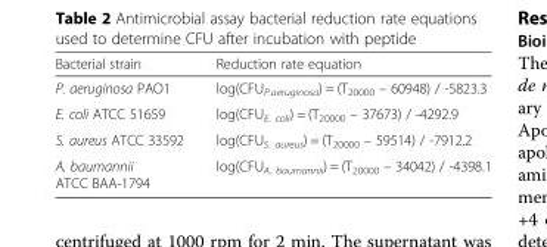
<table><thead><tr><td>Bacterial strain</td><td>Reduction rate equation</td></tr></thead><tbody><tr><td>P. aeruginosa PAO1</td><td>log(CFU<sub>P.aeruginosa</sub>) = (T<sub>20000</sub> – 60948) / -5823.3</td></tr><tr><td>E. coli ATCC 51659</td><td>log(CFU<sub>E. coli</sub>) = (T<sub>20000</sub> – 37673) / -4292.9</td></tr><tr><td>S. aureus ATCC 33592</td><td>log(CFU<sub>S. aureus</sub>) = (T<sub>20000</sub> – 59514) / -7912.2</td></tr><tr><td>A. baumannii ATCC BAA-1794</td><td>log(CFU<sub>A. baumannii</sub>) = (T<sub>20000</sub> – 34042) / -4398.1</td></tr></tbody></table>